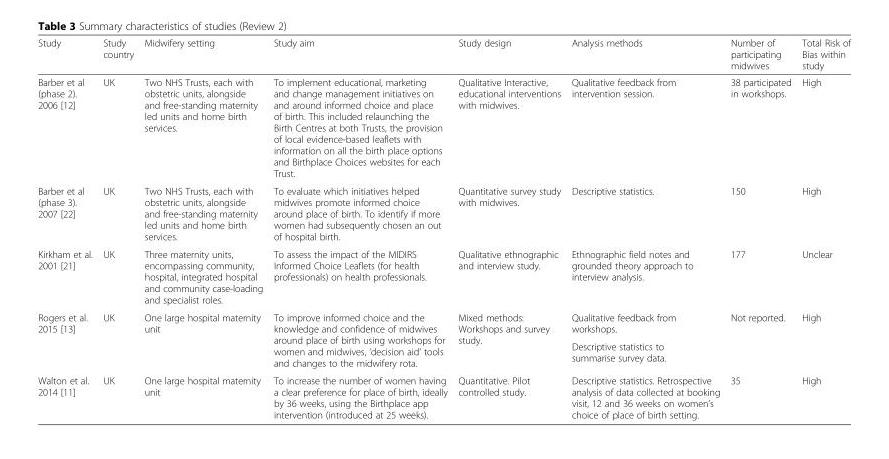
<table><thead><tr><td>Study</td><td>Study country</td><td>Midwifery setting</td><td>Study aim</td><td>Study design</td><td>Analysis methods</td><td>Number of participating midwives</td><td>Total Risk of Bias within study</td></tr></thead><tbody><tr><td>Barber et al (phase 2). 2006 [12]</td><td>UK</td><td>Two NHS Trusts, each with obstetric units, alongside and free-standing maternity led units and home birth services.</td><td>To implement educational, marketing and change management initiatives on and around informed choice and place of birth. This included relaunching the Birth Centres at both Trusts, the provision of local evidence-based leaflets with information on all the birth place options and Birthplace Choices websites for each Trust.</td><td>Qualitative Interactive, educational interventions with midwives.</td><td>Qualitative feedback from intervention session.</td><td>38 participated in workshops.</td><td>High</td></tr><tr><td>Barber et al (phase 3). 2007 [22]</td><td>UK</td><td>Two NHS Trusts, each with obstetric units, alongside and free-standing maternity led units and home birth services.</td><td>To evaluate which initiatives helped midwives promote informed choice around place of birth. To identify if more women had subsequently chosen an out of hospital birth.</td><td>Quantitative survey study with midwives.</td><td>Descriptive statistics.</td><td>150</td><td>High</td></tr><tr><td>Kirkham et al. 2001 [21]</td><td>UK</td><td>Three maternity units, encompassing community, hospital, integrated hospital and community case-loading and specialist roles.</td><td>To assess the impact of the MIDIRS Informed Choice Leaflets (for health professionals) on health professionals.</td><td>Qualitative ethnographic and interview study.</td><td>Ethnographic field notes and grounded theory approach to interview analysis.</td><td>177</td><td>Unclear</td></tr><tr><td rowspan="2">Rogers et al. 2015 [13]</td><td rowspan="2">UK</td><td rowspan="2">One large hospital maternity unit</td><td rowspan="2">To improve informed choice and the knowledge and confidence of midwives around place of birth using workshops for women and midwives, ‘decision aid’ tools and changes to the midwifery rota.</td><td rowspan="2">Mixed methods: Workshops and survey study.</td><td>Qualitative feedback from workshops.</td><td rowspan="2">Not reported.</td><td rowspan="2">High</td></tr><tr><td>Descriptive statistics to summarise survey data.</td></tr><tr><td>Walton et al. 2014 [11]</td><td>UK</td><td>One large hospital maternity unit</td><td>To increase the number of women having a clear preference for place of birth, ideally by 36 weeks, using the Birthplace app intervention (introduced at 25 weeks).</td><td>Quantitative. Pilot controlled study.</td><td>Descriptive statistics. Retrospective analysis of data collected at booking visit, 12 and 36 weeks on women’s choice of place of birth setting.</td><td>35</td><td>High</td></tr></tbody></table>